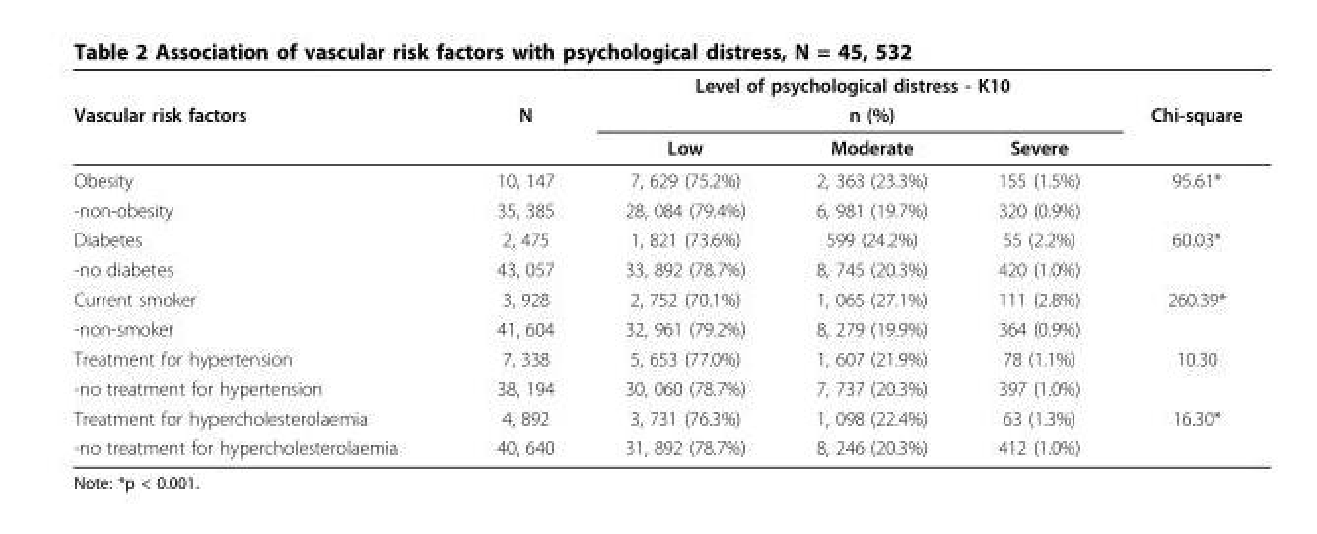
<table><thead><tr><td rowspan="3">Vascular risk factors</td><td rowspan="3">N</td><td colspan="3">Level of psychological distress - K10</td><td rowspan="3">Chi-square</td></tr><tr><td rowspan="2">Low</td><td rowspan="2">n (%) Moderate</td><td rowspan="2">Severe</td></tr><tr></tr></thead><tbody><tr><td>Obesity</td><td>10, 147</td><td>7, 629 (75.2%)</td><td>2, 363 (23.3%)</td><td>155 (1.5%)</td><td>95.61*</td></tr><tr><td>-non-obesity</td><td>35, 385</td><td>28, 084 (79.4%)</td><td>6, 981 (19.7%)</td><td>320 (0.9%)</td><td></td></tr><tr><td>Diabetes</td><td>2, 475</td><td>1, 821 (73.6%)</td><td>599 (24.2%)</td><td>55 (2.2%)</td><td>60.03*</td></tr><tr><td>-no diabetes</td><td>43, 057</td><td>33, 892 (78.7%)</td><td>8, 745 (20.3%)</td><td>420 (1.0%)</td><td></td></tr><tr><td>Current smoker</td><td>3, 928</td><td>2, 752 (70.1%)</td><td>1, 065 (27.1%)</td><td>111 (2.8%)</td><td>260.39*</td></tr><tr><td>-non-smoker</td><td>41, 604</td><td>32, 961 (79.2%)</td><td>8, 279 (19.9%)</td><td>364 (0.9%)</td><td></td></tr><tr><td>Treatment for hypertension</td><td>7, 338</td><td>5, 653 (77.0%)</td><td>1, 607 (21.9%)</td><td>78 (1.1%)</td><td>10.30</td></tr><tr><td>-no treatment for hypertension</td><td>38, 194</td><td>30, 060 (78.7%)</td><td>7, 737 (20.3%)</td><td>397 (1.0%)</td><td></td></tr><tr><td>Treatment for hypercholesterolaemia</td><td>4, 892</td><td>3, 731 (76.3%)</td><td>1, 098 (22.4%)</td><td>63 (1.3%)</td><td>16.30*</td></tr><tr><td>-no treatment for hypercholesterolaemia</td><td>40, 640</td><td>31, 892 (78.7%)</td><td>8, 246 (20.3%)</td><td>412 (1.0%)</td><td></td></tr></tbody></table>